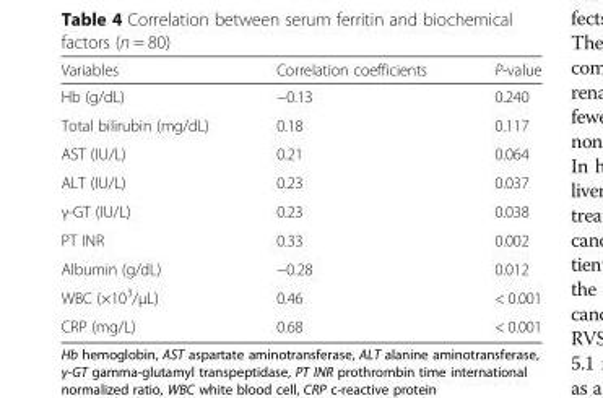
<table><thead><tr><td>Variables</td><td>Correlation coefficients</td><td>P-value</td></tr></thead><tbody><tr><td>Hb (g/dL)</td><td>−0.13</td><td>0.240</td></tr><tr><td>Total bilirubin (mg/dL)</td><td>0.18</td><td>0.117</td></tr><tr><td>AST (IU/L)</td><td>0.21</td><td>0.064</td></tr><tr><td>ALT (IU/L)</td><td>0.23</td><td>0.037</td></tr><tr><td>γ-GT (IU/L)</td><td>0.23</td><td>0.038</td></tr><tr><td>PT INR</td><td>0.33</td><td>0.002</td></tr><tr><td>Albumin (g/dL)</td><td>−0.28</td><td>0.012</td></tr><tr><td>WBC (×10<sup>3</sup>/μL)</td><td>0.46</td><td>&lt; 0.001</td></tr><tr><td>CRP (mg/L)</td><td>0.68</td><td>&lt; 0.001</td></tr></tbody></table>